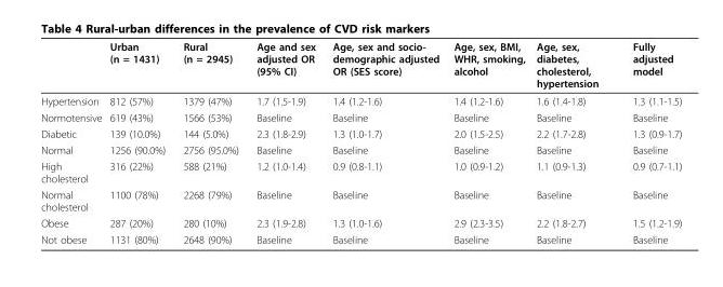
<table><thead><tr><td></td><td>Urban (n = 1431)</td><td>Rural (n = 2945)</td><td>Age and sex adjusted OR (95% CI)</td><td>Age, sex and socio- demographic adjusted OR (SES score)</td><td>Age, sex, BMI, WHR, smoking, alcohol</td><td>Age, sex, diabetes, cholesterol, hypertension</td><td>Fully adjusted model</td></tr></thead><tbody><tr><td>Hypertension</td><td>812 (57%)</td><td>1379 (47%)</td><td>1.7 (1.5-1.9)</td><td>1.4 (1.2-1.6)</td><td>1.4 (1.2-1.6)</td><td>1.6 (1.4-1.8)</td><td>1.3 (1.1-1.5)</td></tr><tr><td>Normotensive</td><td>619 (43%)</td><td>1566 (53%)</td><td>Baseline</td><td>Baseline</td><td>Baseline</td><td>Baseline</td><td>Baseline</td></tr><tr><td>Diabetic</td><td>139 (10.0%)</td><td>144 (5.0%)</td><td>2.3 (1.8-2.9)</td><td>1.3 (1.0-1.7)</td><td>2.0 (1.5-2.5)</td><td>2.2 (1.7-2.8)</td><td>1.3 (0.9-1.7)</td></tr><tr><td>Normal</td><td>1256 (90.0%)</td><td>2756 (95.0%)</td><td>Baseline</td><td>Baseline</td><td>Baseline</td><td>Baseline</td><td>Baseline</td></tr><tr><td>High cholesterol</td><td>316 (22%)</td><td>588 (21%)</td><td>1.2 (1.0-1.4)</td><td>0.9 (0.8-1.1)</td><td>1.0 (0.9-1.2)</td><td>1.1 (0.9-1.3)</td><td>0.9 (0.7-1.1)</td></tr><tr><td>Normal cholesterol</td><td>1100 (78%)</td><td>2268 (79%)</td><td>Baseline</td><td>Baseline</td><td>Baseline</td><td>Baseline</td><td>Baseline</td></tr><tr><td>Obese</td><td>287 (20%)</td><td>280 (10%)</td><td>2.3 (1.9-2.8)</td><td>1.3 (1.0-1.6)</td><td>2.9 (2.3-3.5)</td><td>2.2 (1.8-2.7)</td><td>1.5 (1.2-1.9)</td></tr><tr><td>Not obese</td><td>1131 (80%)</td><td>2648 (90%)</td><td>Baseline</td><td>Baseline</td><td>Baseline</td><td>Baseline</td><td>Baseline</td></tr></tbody></table>